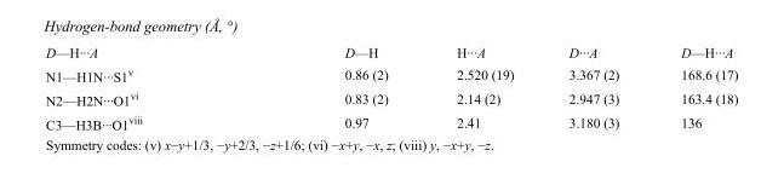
<table><tbody><tr><td>D—H···A</td><td>D—H</td><td>H···A</td><td>D···A</td><td>D—H···A</td></tr><tr><td>N1—H1N···S1<sup>v</sup></td><td>0.86 (2)</td><td>2.520 (19)</td><td>3.367 (2)</td><td>168.6 (17)</td></tr><tr><td>N2—H2N···O1<sup>vi</sup></td><td>0.83 (2)</td><td>2.14 (2)</td><td>2.947 (3)</td><td>163.4 (18)</td></tr><tr><td>C3—H3B···O1<sup>viii</sup></td><td>0.97</td><td>2.41</td><td>3.180 (3)</td><td>136</td></tr></tbody></table>